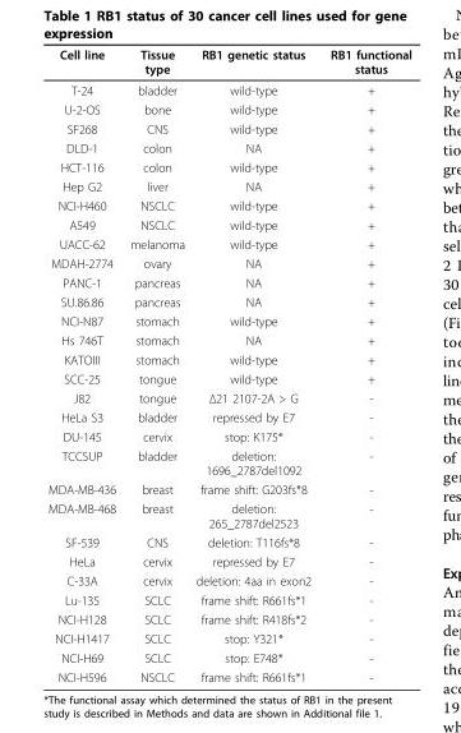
<table><thead><tr><td>Cell line</td><td>Tissue type</td><td>RB1 genetic status</td><td>RB1 functional status</td></tr></thead><tbody><tr><td>T-24</td><td>bladder</td><td>wild-type</td><td>+</td></tr><tr><td>U-2-OS</td><td>bone</td><td>wild-type</td><td>+</td></tr><tr><td>SF268</td><td>CNS</td><td>wild-type</td><td>+</td></tr><tr><td>DLD-1</td><td>colon</td><td>NA</td><td>+</td></tr><tr><td>HCT-116</td><td>colon</td><td>wild-type</td><td>+</td></tr><tr><td>Hep G2</td><td>liver</td><td>NA</td><td>+</td></tr><tr><td>NCI-H460</td><td>NSCLC</td><td>wild-type</td><td>+</td></tr><tr><td>A549</td><td>NSCLC</td><td>wild-type</td><td>+</td></tr><tr><td>UACC-62</td><td>melanoma</td><td>wild-type</td><td>+</td></tr><tr><td>MDAH-2774</td><td>ovary</td><td>NA</td><td>+</td></tr><tr><td>PANC-1</td><td>pancreas</td><td>NA</td><td>+</td></tr><tr><td>SU.86.86</td><td>pancreas</td><td>NA</td><td>+</td></tr><tr><td>NCI-N87</td><td>stomach</td><td>wild-type</td><td>+</td></tr><tr><td>Hs 746T</td><td>stomach</td><td>NA</td><td>+</td></tr><tr><td>KATOIII</td><td>stomach</td><td>wild-type</td><td>+</td></tr><tr><td>SCC-25</td><td>tongue</td><td>wild-type</td><td>+</td></tr><tr><td>J82</td><td>tongue</td><td>Δ21 2107-2A &gt; G</td><td>-</td></tr><tr><td>HeLa S3</td><td>bladder</td><td>repressed by E7</td><td>-</td></tr><tr><td>DU-145</td><td>cervix</td><td>stop: K175*</td><td>-</td></tr><tr><td>TCCSUP</td><td>bladder</td><td>deletion: 1696_2787del1092</td><td>-</td></tr><tr><td>MDA-MB-436</td><td>breast</td><td>frame shift: G203fs*8</td><td>-</td></tr><tr><td>MDA-MB-468</td><td>breast</td><td>deletion: 265_2787del2523</td><td>-</td></tr><tr><td>SF-539</td><td>CNS</td><td>deletion: T116fs*8</td><td>-</td></tr><tr><td>HeLa</td><td>cervix</td><td>repressed by E7</td><td>-</td></tr><tr><td>C-33A</td><td>cervix</td><td>deletion: 4aa in exon2</td><td>-</td></tr><tr><td>Lu-135</td><td>SCLC</td><td>frame shift: R661fs*1</td><td>-</td></tr><tr><td>NCI-H128</td><td>SCLC</td><td>frame shift: R418fs*2</td><td>-</td></tr><tr><td>NCI-H1417</td><td>SCLC</td><td>stop: Y321*</td><td>-</td></tr><tr><td>NCI-H69</td><td>SCLC</td><td>stop: E748*</td><td>-</td></tr><tr><td>NCI-H596</td><td>NSCLC</td><td>frame shift: R661fs*1</td><td>-</td></tr></tbody></table>